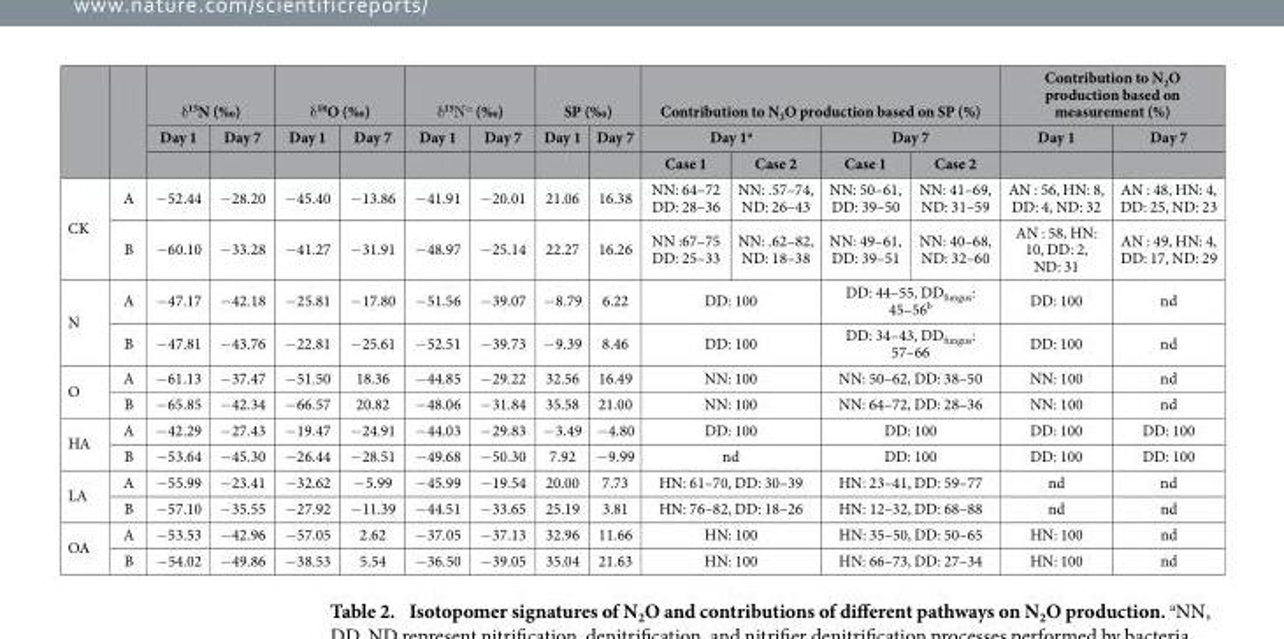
<table><thead><tr><td rowspan="3"></td><td rowspan="3"></td><td colspan="2">δ <sup>15</sup>N (‰)</td><td colspan="2">δ <sup>18</sup>O (‰)</td><td colspan="2">δ <sup>15</sup>Ν <sup>α</sup> (‰)</td><td colspan="2">SP (‰)</td><td colspan="4">Contribution to N<sub>2</sub>O production based on SP (%)</td><td colspan="2">Contribution to N<sub>2</sub>O production based on measurement (%)</td></tr><tr><td rowspan="2">Day 1</td><td rowspan="2">Day 7</td><td rowspan="2">Day 1</td><td rowspan="2">Day 7</td><td rowspan="2">Day 1</td><td rowspan="2">Day 7</td><td rowspan="2">Day 1</td><td rowspan="2">Day 7</td><td colspan="2">Day 1<sup>a</sup></td><td colspan="2">Day 7</td><td rowspan="2">Day 1</td><td rowspan="2">Day 7</td></tr><tr><td>Case 1</td><td>Case 2</td><td>Case 1</td><td>Case 2</td></tr></thead><tbody><tr><td rowspan="2">CK</td><td>A</td><td>− 52.44</td><td>− 28.20</td><td>− 45.40</td><td>− 13.86</td><td>− 41.91</td><td>− 20.01</td><td>21.06</td><td>16.38</td><td>NN: 64–72 DD: 28–36</td><td>NN: .57–74, ND: 26–43</td><td>NN: 50–61, DD: 39–50</td><td>NN: 41–69, ND: 31–59</td><td>AN : 56, HN: 8, DD: 4, ND: 32</td><td>AN : 48, HN: 4, DD: 25, ND: 23</td></tr><tr><td>B</td><td>− 60.10</td><td>− 33.28</td><td>− 41.27</td><td>− 31.91</td><td>− 48.97</td><td>− 25.14</td><td>22.27</td><td>16.26</td><td>NN :67–75 DD: 25–33</td><td>NN: .62–82, ND: 18–38</td><td>NN: 49–61, DD: 39–51</td><td>NN: 40–68, ND: 32–60</td><td>AN : 58, HN: 10, DD: 2, ND: 31</td><td>AN : 49, HN: 4, DD: 17, ND: 29</td></tr><tr><td rowspan="2">N</td><td>A</td><td>− 47.17</td><td>− 42.18</td><td>− 25.81</td><td>− 17.80</td><td>− 51.56</td><td>− 39.07</td><td>− 8.79</td><td>6.22</td><td colspan="2">DD: 100</td><td colspan="2">DD: 44–55, DD<sub>fungus</sub>: 45–56<sup>b</sup></td><td>DD: 100</td><td>nd</td></tr><tr><td>B</td><td>− 47.81</td><td>− 43.76</td><td>− 22.81</td><td>− 25.61</td><td>− 52.51</td><td>− 39.73</td><td>− 9.39</td><td>8.46</td><td colspan="2">DD: 100</td><td colspan="2">DD: 34–43, DD<sub>fungus</sub>: 57–66</td><td>DD: 100</td><td>nd</td></tr><tr><td rowspan="2">O</td><td>A</td><td>− 61.13</td><td>− 37.47</td><td>− 51.50</td><td>18.36</td><td>− 44.85</td><td>− 29.22</td><td>32.56</td><td>16.49</td><td colspan="2">NN: 100</td><td colspan="2">NN: 50–62, DD: 38–50</td><td>NN: 100</td><td>nd</td></tr><tr><td>B</td><td>− 65.85</td><td>− 42.34</td><td>− 66.57</td><td>20.82</td><td>− 48.06</td><td>− 31.84</td><td>35.58</td><td>21.00</td><td colspan="2">NN: 100</td><td colspan="2">NN: 64–72, DD: 28–36</td><td>NN: 100</td><td>nd</td></tr><tr><td rowspan="2">HA</td><td>A</td><td>− 42.29</td><td>− 27.43</td><td>− 19.47</td><td>− 24.91</td><td>− 44.03</td><td>− 29.83</td><td>− 3.49</td><td>− 4.80</td><td colspan="2">DD: 100</td><td colspan="2">DD: 100</td><td>DD: 100</td><td>DD: 100</td></tr><tr><td>B</td><td>− 53.64</td><td>− 45.30</td><td>− 26.44</td><td>− 28.51</td><td>− 49.68</td><td>− 50.30</td><td>7.92</td><td>− 9.99</td><td colspan="2">nd</td><td colspan="2">DD: 100</td><td>DD: 100</td><td>DD: 100</td></tr><tr><td rowspan="2">LA</td><td>A</td><td>− 55.99</td><td>− 23.41</td><td>− 32.62</td><td>− 5.99</td><td>− 45.99</td><td>− 19.54</td><td>20.00</td><td>7.73</td><td colspan="2">HN: 61–70, DD: 30–39</td><td colspan="2">HN: 23–41, DD: 59–77</td><td>nd</td><td>nd</td></tr><tr><td>B</td><td>− 57.10</td><td>− 35.55</td><td>− 27.92</td><td>− 11.39</td><td>− 44.51</td><td>− 33.65</td><td>25.19</td><td>3.81</td><td colspan="2">HN: 76–82, DD: 18–26</td><td colspan="2">HN: 12–32, DD: 68–88</td><td>nd</td><td>nd</td></tr><tr><td rowspan="2">OA</td><td>A</td><td>− 53.53</td><td>− 42.96</td><td>− 57.05</td><td>2.62</td><td>− 37.05</td><td>− 37.13</td><td>32.96</td><td>11.66</td><td colspan="2">HN: 100</td><td colspan="2">HN: 35–50, DD: 50–65</td><td>HN: 100</td><td>nd</td></tr><tr><td>B</td><td>− 54.02</td><td>− 49.86</td><td>− 38.53</td><td>5.54</td><td>− 36.50</td><td>− 39.05</td><td>35.04</td><td>21.63</td><td colspan="2">HN: 100</td><td colspan="2">HN: 66–73, DD: 27–34</td><td>HN: 100</td><td>nd</td></tr></tbody></table>